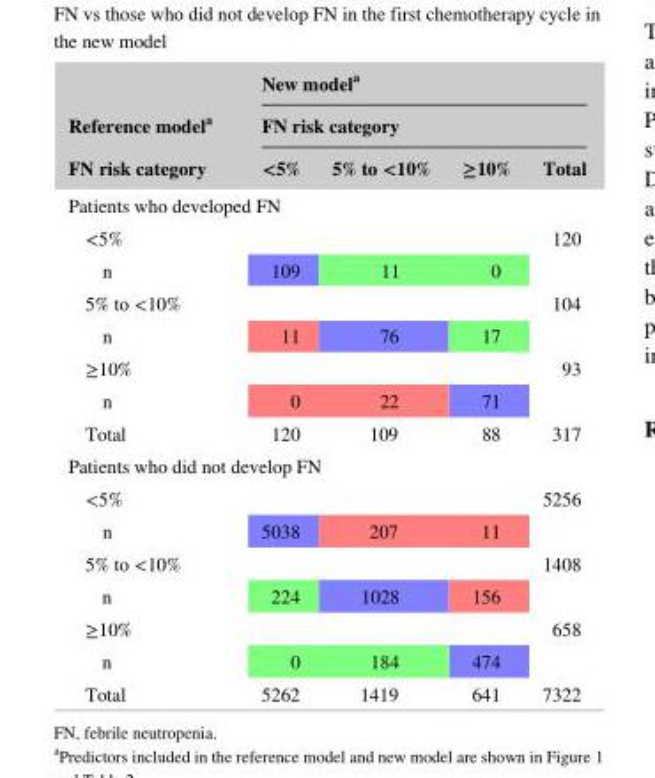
<table><thead><tr><td rowspan="3">Reference model<sup>a</sup> FN risk category</td><td rowspan="2" colspan="4">New model<sup>a</sup> FN risk category</td></tr><tr></tr><tr><td>&lt;5%</td><td>5% to &lt;10%</td><td>≥10%</td><td>Total</td></tr></thead><tbody><tr><td colspan="5">Patients who developed FN</td></tr><tr><td>&lt;5%</td><td></td><td></td><td></td><td>120</td></tr><tr><td>n</td><td>109</td><td>11</td><td>0</td><td></td></tr><tr><td>5% to &lt;10%</td><td></td><td></td><td></td><td>104</td></tr><tr><td>n</td><td>11</td><td>76</td><td>17</td><td></td></tr><tr><td>≥10%</td><td></td><td></td><td></td><td>93</td></tr><tr><td>n</td><td>0</td><td>22</td><td>71</td><td></td></tr><tr><td>Total</td><td>120</td><td>109</td><td>88</td><td>317</td></tr><tr><td colspan="5">Patients who did not develop FN</td></tr><tr><td>&lt;5%</td><td></td><td></td><td></td><td>5256</td></tr><tr><td>n</td><td>5038</td><td>207</td><td>11</td><td></td></tr><tr><td>5% to &lt;10%</td><td></td><td></td><td></td><td>1408</td></tr><tr><td>n</td><td>224</td><td>1028</td><td>156</td><td></td></tr><tr><td>≥10%</td><td></td><td></td><td></td><td>658</td></tr><tr><td>n</td><td>0</td><td>184</td><td>474</td><td></td></tr><tr><td>Total</td><td>5262</td><td>1419</td><td>641</td><td>7322</td></tr></tbody></table>